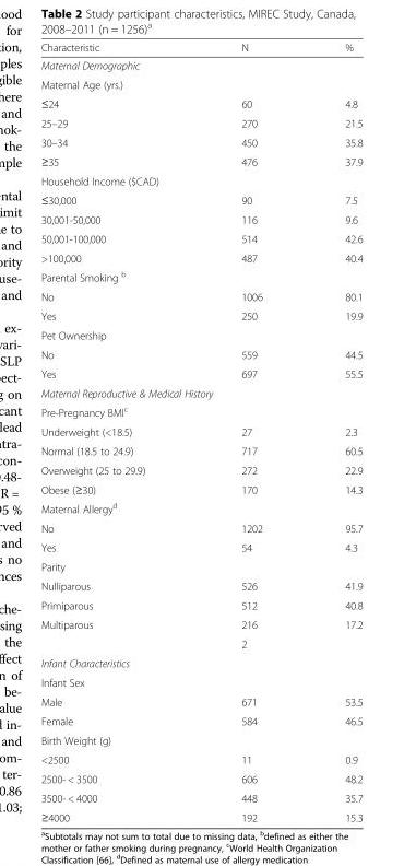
<table><thead><tr><td>Characteristic</td><td>N</td><td>%</td></tr></thead><tbody><tr><td colspan="3">Maternal Demographic</td></tr><tr><td colspan="3">Maternal Age (yrs.)</td></tr><tr><td>≤24</td><td>60</td><td>4.8</td></tr><tr><td>25–29</td><td>270</td><td>21.5</td></tr><tr><td>30–34</td><td>450</td><td>35.8</td></tr><tr><td>≥35</td><td>476</td><td>37.9</td></tr><tr><td colspan="3">Household Income ($CAD)</td></tr><tr><td>≤30,000</td><td>90</td><td>7.5</td></tr><tr><td>30,001-50,000</td><td>116</td><td>9.6</td></tr><tr><td>50,001-100,000</td><td>514</td><td>42.6</td></tr><tr><td>&gt;100,000</td><td>487</td><td>40.4</td></tr><tr><td colspan="3">Parental Smoking <sup>b</sup></td></tr><tr><td>No</td><td>1006</td><td>80.1</td></tr><tr><td>Yes</td><td>250</td><td>19.9</td></tr><tr><td colspan="3">Pet Ownership</td></tr><tr><td>No</td><td>559</td><td>44.5</td></tr><tr><td>Yes</td><td>697</td><td>55.5</td></tr><tr><td colspan="3">Maternal Reproductive &amp; Medical History</td></tr><tr><td colspan="3">Pre-Pregnancy BMI<sup>c</sup></td></tr><tr><td>Underweight (&lt;18.5)</td><td>27</td><td>2.3</td></tr><tr><td>Normal (18.5 to 24.9)</td><td>717</td><td>60.5</td></tr><tr><td>Overweight (25 to 29.9)</td><td>272</td><td>22.9</td></tr><tr><td>Obese (≥30)</td><td>170</td><td>14.3</td></tr><tr><td colspan="3">Maternal Allergy<sup>d</sup></td></tr><tr><td>No</td><td>1202</td><td>95.7</td></tr><tr><td>Yes</td><td>54</td><td>4.3</td></tr><tr><td colspan="3">Parity</td></tr><tr><td>Nulliparous</td><td>526</td><td>41.9</td></tr><tr><td>Primiparous</td><td>512</td><td>40.8</td></tr><tr><td rowspan="2">Multiparous</td><td>216</td><td rowspan="2">17.2</td></tr><tr><td>2</td></tr><tr><td colspan="3">Infant Characteristics</td></tr><tr><td colspan="3">Infant Sex</td></tr><tr><td>Male</td><td>671</td><td>53.5</td></tr><tr><td>Female</td><td>584</td><td>46.5</td></tr><tr><td colspan="3">Birth Weight (g)</td></tr><tr><td>&lt;2500</td><td>11</td><td>0.9</td></tr><tr><td>2500- &lt; 3500</td><td>606</td><td>48.2</td></tr><tr><td>3500- &lt; 4000</td><td>448</td><td>35.7</td></tr><tr><td>≥4000</td><td>192</td><td>15.3</td></tr></tbody></table>